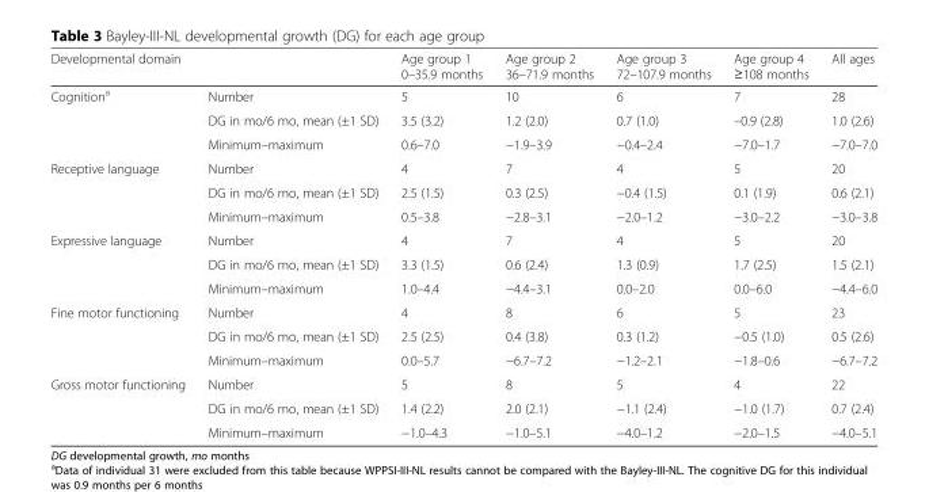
<table><thead><tr><td>Developmental domain</td><td></td><td>Age group 1 0–35.9 months</td><td>Age group 2 36–71.9 months</td><td>Age group 3 72–107.9 months</td><td>Age group 4 ≥108 months</td><td>All ages</td></tr></thead><tbody><tr><td rowspan="3">Cognition<sup>a</sup></td><td>Number</td><td>5</td><td>10</td><td>6</td><td>7</td><td>28</td></tr><tr><td>DG in mo/6 mo, mean (±1 SD)</td><td>3.5 (3.2)</td><td>1.2 (2.0)</td><td>0.7 (1.0)</td><td>–0.9 (2.8)</td><td>1.0 (2.6)</td></tr><tr><td>Minimum–maximum</td><td>0.6–7.0</td><td>−1.9–3.9</td><td>−0.4–2.4</td><td>−7.0–1.7</td><td>−7.0–7.0</td></tr><tr><td rowspan="3">Receptive language</td><td>Number</td><td>4</td><td>7</td><td>4</td><td>5</td><td>20</td></tr><tr><td>DG in mo/6 mo, mean (±1 SD)</td><td>2.5 (1.5)</td><td>0.3 (2.5)</td><td>−0.4 (1.5)</td><td>0.1 (1.9)</td><td>0.6 (2.1)</td></tr><tr><td>Minimum–maximum</td><td>0.5–3.8</td><td>−2.8–3.1</td><td>−2.0–1.2</td><td>−3.0–2.2</td><td>−3.0–3.8</td></tr><tr><td rowspan="3">Expressive language</td><td>Number</td><td>4</td><td>7</td><td>4</td><td>5</td><td>20</td></tr><tr><td>DG in mo/6 mo, mean (±1 SD)</td><td>3.3 (1.5)</td><td>0.6 (2.4)</td><td>1.3 (0.9)</td><td>1.7 (2.5)</td><td>1.5 (2.1)</td></tr><tr><td>Minimum–maximum</td><td>1.0–4.4</td><td>−4.4–3.1</td><td>0.0–2.0</td><td>0.0–6.0</td><td>−4.4–6.0</td></tr><tr><td rowspan="3">Fine motor functioning</td><td>Number</td><td>4</td><td>8</td><td>6</td><td>5</td><td>23</td></tr><tr><td>DG in mo/6 mo, mean (±1 SD)</td><td>2.5 (2.5)</td><td>0.4 (3.8)</td><td>0.3 (1.2)</td><td>−0.5 (1.0)</td><td>0.5 (2.6)</td></tr><tr><td>Minimum–maximum</td><td>0.0–5.7</td><td>−6.7–7.2</td><td>−1.2–2.1</td><td>−1.8–0.6</td><td>−6.7–7.2</td></tr><tr><td rowspan="3">Gross motor functioning</td><td>Number</td><td>5</td><td>8</td><td>5</td><td>4</td><td>22</td></tr><tr><td>DG in mo/6 mo, mean (±1 SD)</td><td>1.4 (2.2)</td><td>2.0 (2.1)</td><td>−1.1 (2.4)</td><td>−1.0 (1.7)</td><td>0.7 (2.4)</td></tr><tr><td>Minimum–maximum</td><td>−1.0–4.3</td><td>−1.0–5.1</td><td>−4.0–1.2</td><td>−2.0–1.5</td><td>−4.0–5.1</td></tr></tbody></table>